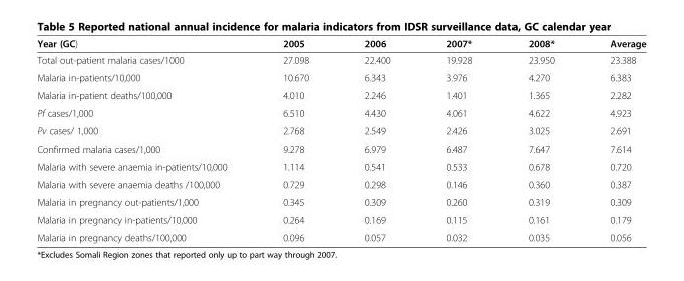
<table><thead><tr><td>Year (GC)</td><td>2005</td><td>2006</td><td>2007*</td><td>2008*</td><td>Average</td></tr></thead><tbody><tr><td>Total out-patient malaria cases/1000</td><td>27.098</td><td>22.400</td><td>19.928</td><td>23.950</td><td>23.388</td></tr><tr><td>Malaria in-patients/10,000</td><td>10.670</td><td>6.343</td><td>3.976</td><td>4.270</td><td>6.383</td></tr><tr><td>Malaria in-patient deaths/100,000</td><td>4.010</td><td>2.246</td><td>1.401</td><td>1.365</td><td>2.282</td></tr><tr><td>Pf cases/1,000</td><td>6.510</td><td>4.430</td><td>4.061</td><td>4.622</td><td>4.923</td></tr><tr><td>Pv cases/ 1,000</td><td>2.768</td><td>2.549</td><td>2.426</td><td>3.025</td><td>2.691</td></tr><tr><td>Confirmed malaria cases/1,000</td><td>9.278</td><td>6.979</td><td>6.487</td><td>7.647</td><td>7.614</td></tr><tr><td>Malaria with severe anaemia in-patients/10,000</td><td>1.114</td><td>0.541</td><td>0.533</td><td>0.678</td><td>0.720</td></tr><tr><td>Malaria with severe anaemia deaths /100,000</td><td>0.729</td><td>0.298</td><td>0.146</td><td>0.360</td><td>0.387</td></tr><tr><td>Malaria in pregnancy out-patients/1,000</td><td>0.345</td><td>0.309</td><td>0.260</td><td>0.319</td><td>0.309</td></tr><tr><td>Malaria in pregnancy in-patients/10,000</td><td>0.264</td><td>0.169</td><td>0.115</td><td>0.161</td><td>0.179</td></tr><tr><td>Malaria in pregnancy deaths/100,000</td><td>0.096</td><td>0.057</td><td>0.032</td><td>0.035</td><td>0.056</td></tr></tbody></table>